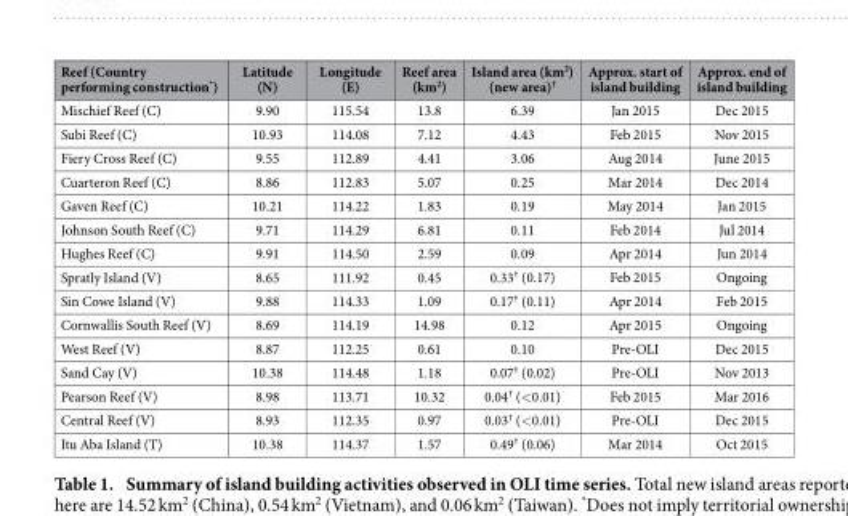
<table><thead><tr><td>Reef (Country performing construction*)</td><td>Latitude (N)</td><td>Longitude (E)</td><td>Reef area (km<sup>2</sup>)</td><td>Island area (km<sup>2</sup>) (new area)†</td><td>Approx. start of island building</td><td>Approx. end of island building</td></tr></thead><tbody><tr><td>Mischief Reef (C)</td><td>9.90</td><td>115.54</td><td>13.8</td><td>6.39</td><td>Jan 2015</td><td>Dec 2015</td></tr><tr><td>Subi Reef (C)</td><td>10.93</td><td>114.08</td><td>7.12</td><td>4.43</td><td>Feb 2015</td><td>Nov 2015</td></tr><tr><td>Fiery Cross Reef (C)</td><td>9.55</td><td>112.89</td><td>4.41</td><td>3.06</td><td>Aug 2014</td><td>June 2015</td></tr><tr><td>Cuarteron Reef (C)</td><td>8.86</td><td>112.83</td><td>5.07</td><td>0.25</td><td>Mar 2014</td><td>Dec 2014</td></tr><tr><td>Gaven Reef (C)</td><td>10.21</td><td>114.22</td><td>1.83</td><td>0.19</td><td>May 2014</td><td>Jan 2015</td></tr><tr><td>Johnson South Reef (C)</td><td>9.71</td><td>114.29</td><td>6.81</td><td>0.11</td><td>Feb 2014</td><td>Jul 2014</td></tr><tr><td>Hughes Reef (C)</td><td>9.91</td><td>114.50</td><td>2.59</td><td>0.09</td><td>Apr 2014</td><td>Jun 2014</td></tr><tr><td>Spratly Island (V)</td><td>8.65</td><td>111.92</td><td>0.45</td><td>0.33† (0.17)</td><td>Feb 2015</td><td>Ongoing</td></tr><tr><td>Sin Cowe Island (V)</td><td>9.88</td><td>114.33</td><td>1.09</td><td>0.17† (0.11)</td><td>Apr 2014</td><td>Feb 2015</td></tr><tr><td>Cornwallis South Reef (V)</td><td>8.69</td><td>114.19</td><td>14.98</td><td>0.12</td><td>Apr 2015</td><td>Ongoing</td></tr><tr><td>West Reef (V)</td><td>8.87</td><td>112.25</td><td>0.61</td><td>0.10</td><td>Pre-OLI</td><td>Dec 2015</td></tr><tr><td>Sand Cay (V)</td><td>10.38</td><td>114.48</td><td>1.18</td><td>0.07† (0.02)</td><td>Pre-OLI</td><td>Nov 2013</td></tr><tr><td>Pearson Reef (V)</td><td>8.98</td><td>113.71</td><td>10.32</td><td>0.04† (&lt; 0.01)</td><td>Feb 2015</td><td>Mar 2016</td></tr><tr><td>Central Reef (V)</td><td>8.93</td><td>112.35</td><td>0.97</td><td>0.03† (&lt; 0.01)</td><td>Pre-OLI</td><td>Dec 2015</td></tr><tr><td>Itu Aba Island (T)</td><td>10.38</td><td>114.37</td><td>1.57</td><td>0.49† (0.06)</td><td>Mar 2014</td><td>Oct 2015</td></tr></tbody></table>